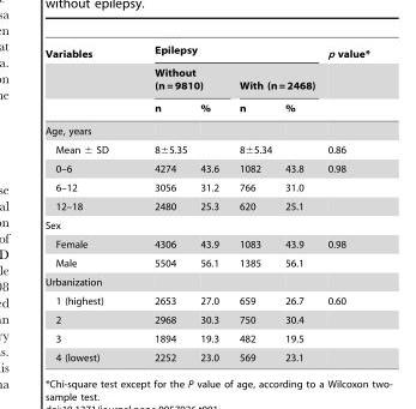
<table><thead><tr><td rowspan="3">Variables</td><td colspan="4">Epilepsy</td><td rowspan="3">p value*</td></tr><tr><td colspan="2">Without (n = 9810)</td><td colspan="2">With (n = 2468)</td></tr><tr><td>n</td><td>%</td><td>n</td><td>%</td></tr></thead><tbody><tr><td colspan="6">Age, years</td></tr><tr><td>Mean ± SD</td><td colspan="2">8±5.35</td><td colspan="2">8±5.34</td><td>0.86</td></tr><tr><td>0–6</td><td>4274</td><td>43.6</td><td>1082</td><td>43.8</td><td>0.98</td></tr><tr><td>6–12</td><td>3056</td><td>31.2</td><td>766</td><td>31.0</td><td></td></tr><tr><td>12–18</td><td>2480</td><td>25.3</td><td>620</td><td>25.1</td><td></td></tr><tr><td colspan="6">Sex</td></tr><tr><td>Female</td><td>4306</td><td>43.9</td><td>1083</td><td>43.9</td><td>0.98</td></tr><tr><td>Male</td><td>5504</td><td>56.1</td><td>1385</td><td>56.1</td><td></td></tr><tr><td colspan="6">Urbanization</td></tr><tr><td>1 (highest)</td><td>2653</td><td>27.0</td><td>659</td><td>26.7</td><td>0.60</td></tr><tr><td>2</td><td>2968</td><td>30.3</td><td>750</td><td>30.4</td><td></td></tr><tr><td>3</td><td>1894</td><td>19.3</td><td>482</td><td>19.5</td><td></td></tr><tr><td>4 (lowest)</td><td>2252</td><td>23.0</td><td>569</td><td>23.1</td><td></td></tr></tbody></table>